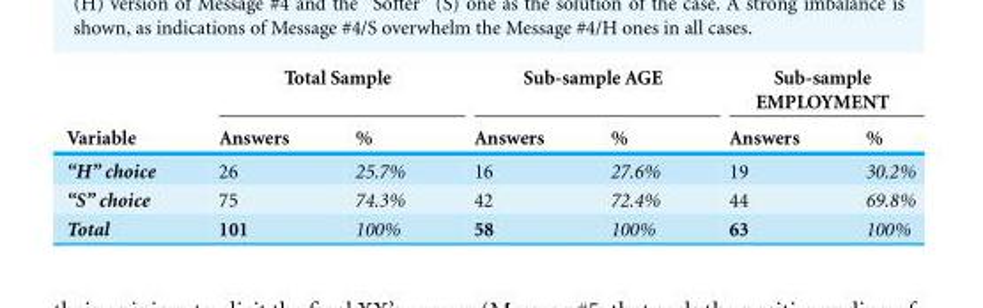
<table><thead><tr><td rowspan="2">Variable</td><td colspan="2">Total Sample</td><td colspan="2">Sub-sample AGE</td><td colspan="2">Sub-sample EMPLOYMENT</td></tr><tr><td>Answers</td><td>%</td><td>Answers</td><td>%</td><td>Answers</td><td>%</td></tr></thead><tbody><tr><td>“H” choice</td><td>26</td><td>25.7%</td><td>16</td><td>27.6%</td><td>19</td><td>30.2%</td></tr><tr><td>“S” choice</td><td>75</td><td>74.3%</td><td>42</td><td>72.4%</td><td>44</td><td>69.8%</td></tr><tr><td>Total</td><td>101</td><td>100%</td><td>58</td><td>100%</td><td>63</td><td>100%</td></tr></tbody></table>